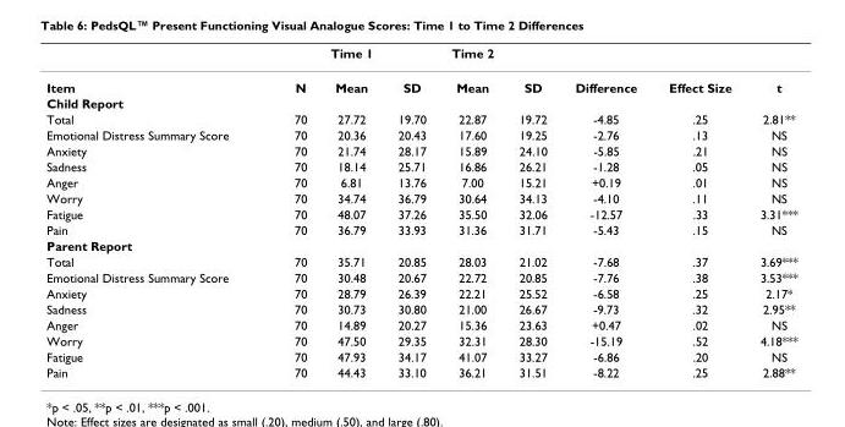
<table><thead><tr><td></td><td></td><td>Time 1</td><td></td><td>Time 2</td><td></td><td></td><td></td><td></td></tr></thead><tbody><tr><td>Item</td><td>N</td><td>Mean</td><td>SD</td><td>Mean</td><td>SD</td><td>Difference</td><td>Effect Size</td><td>t</td></tr><tr><td colspan="9">Child Report</td></tr><tr><td>Total</td><td>70</td><td>27.72</td><td>19.70</td><td>22.87</td><td>19.72</td><td>-4.85</td><td>.25</td><td>2.81**</td></tr><tr><td>Emotional Distress Summary Score</td><td>70</td><td>20.36</td><td>20.43</td><td>17.60</td><td>19.25</td><td>-2.76</td><td>.13</td><td>NS</td></tr><tr><td>Anxiety</td><td>70</td><td>21.74</td><td>28.17</td><td>15.89</td><td>24.10</td><td>-5.85</td><td>.21</td><td>NS</td></tr><tr><td>Sadness</td><td>70</td><td>18.14</td><td>25.71</td><td>16.86</td><td>26.21</td><td>-1.28</td><td>.05</td><td>NS</td></tr><tr><td>Anger</td><td>70</td><td>6.81</td><td>13.76</td><td>7.00</td><td>15.21</td><td>+0.19</td><td>.01</td><td>NS</td></tr><tr><td>Worry</td><td>70</td><td>34.74</td><td>36.79</td><td>30.64</td><td>34.13</td><td>-4.10</td><td>.11</td><td>NS</td></tr><tr><td>Fatigue</td><td>70</td><td>48.07</td><td>37.26</td><td>35.50</td><td>32.06</td><td>-12.57</td><td>.33</td><td>3.31***</td></tr><tr><td>Pain</td><td>70</td><td>36.79</td><td>33.93</td><td>31.36</td><td>31.71</td><td>-5.43</td><td>.15</td><td>NS</td></tr><tr><td colspan="9">Parent Report</td></tr><tr><td>Total</td><td>70</td><td>35.71</td><td>20.85</td><td>28.03</td><td>21.02</td><td>-7.68</td><td>.37</td><td>3.69***</td></tr><tr><td>Emotional Distress Summary Score</td><td>70</td><td>30.48</td><td>20.67</td><td>22.72</td><td>20.85</td><td>-7.76</td><td>.38</td><td>3.53***</td></tr><tr><td>Anxiety</td><td>70</td><td>28.79</td><td>26.39</td><td>22.21</td><td>25.52</td><td>-6.58</td><td>.25</td><td>2.17*</td></tr><tr><td>Sadness</td><td>70</td><td>30.73</td><td>30.80</td><td>21.00</td><td>26.67</td><td>-9.73</td><td>.32</td><td>2.95**</td></tr><tr><td>Anger</td><td>70</td><td>14.89</td><td>20.27</td><td>15.36</td><td>23.63</td><td>+0.47</td><td>.02</td><td>NS</td></tr><tr><td>Worry</td><td>70</td><td>47.50</td><td>29.35</td><td>32.31</td><td>28.30</td><td>-15.19</td><td>.52</td><td>4.18***</td></tr><tr><td>Fatigue</td><td>70</td><td>47.93</td><td>34.17</td><td>41.07</td><td>33.27</td><td>-6.86</td><td>.20</td><td>NS</td></tr><tr><td>Pain</td><td>70</td><td>44.43</td><td>33.10</td><td>36.21</td><td>31.51</td><td>-8.22</td><td>.25</td><td>2.88**</td></tr></tbody></table>